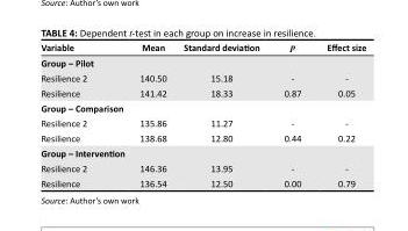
<table><thead><tr><td>Variable</td><td>Mean</td><td>Standard deviation</td><td>p</td><td>Effect size</td></tr></thead><tbody><tr><td colspan="5">Group – Pilot</td></tr><tr><td>Resilience 2</td><td>140.50</td><td>15.18</td><td>-</td><td>-</td></tr><tr><td>Resilience</td><td>141.42</td><td>18.33</td><td>0.87</td><td>0.05</td></tr><tr><td colspan="5">Group – Comparison</td></tr><tr><td>Resilience 2</td><td>135.86</td><td>11.27</td><td>-</td><td>-</td></tr><tr><td>Resilience</td><td>138.68</td><td>12.80</td><td>0.44</td><td>0.22</td></tr><tr><td colspan="5">Group – Intervention</td></tr><tr><td>Resilience 2</td><td>146.36</td><td>13.95</td><td>-</td><td>-</td></tr><tr><td>Resilience</td><td>136.54</td><td>12.50</td><td>0.00</td><td>0.79</td></tr></tbody></table>